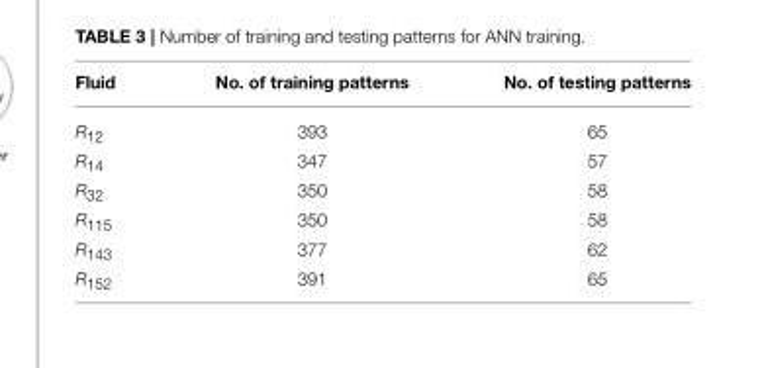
<table><thead><tr><td>Fluid</td><td>No. of training patterns</td><td>No. of testing patterns</td></tr></thead><tbody><tr><td>R<sub>12</sub></td><td>393</td><td>65</td></tr><tr><td>R<sub>14</sub></td><td>347</td><td>57</td></tr><tr><td>R<sub>32</sub></td><td>350</td><td>58</td></tr><tr><td>R<sub>115</sub></td><td>350</td><td>58</td></tr><tr><td>R<sub>143</sub></td><td>377</td><td>62</td></tr><tr><td>R<sub>152</sub></td><td>391</td><td>65</td></tr></tbody></table>